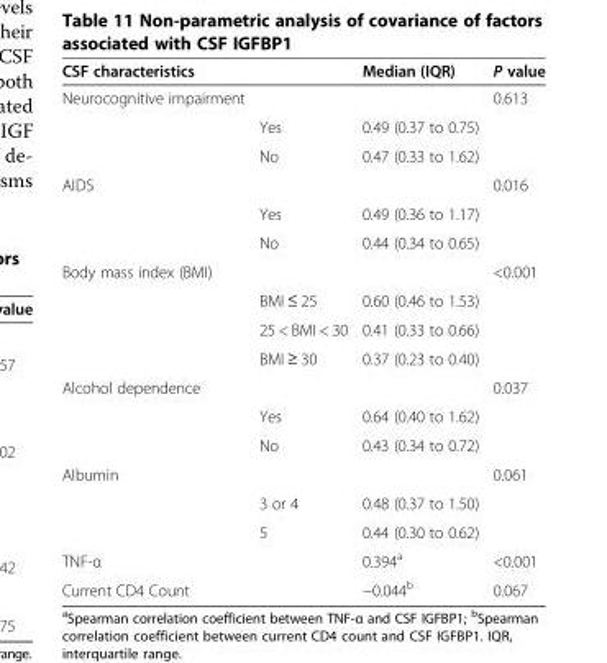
<table><thead><tr><td colspan="2">CSF characteristics</td><td rowspan="2">Median (IQR)</td><td rowspan="2">P value 0.613</td></tr><tr><td>Neurocognitive impairment</td><td></td></tr></thead><tbody><tr><td></td><td>Yes</td><td>0.49 (0.37 to 0.75)</td><td></td></tr><tr><td></td><td>No</td><td>0.47 (0.33 to 1.62)</td><td></td></tr><tr><td rowspan="3">AIDS</td><td></td><td></td><td>0.016</td></tr><tr><td>Yes</td><td>0.49 (0.36 to 1.17)</td><td></td></tr><tr><td>No</td><td>0.44 (0.34 to 0.65)</td><td></td></tr><tr><td rowspan="4">Body mass index (BMI)</td><td></td><td></td><td>&lt;0.001</td></tr><tr><td>BMI ≤ 25</td><td>0.60 (0.46 to 1.53)</td><td></td></tr><tr><td>25 &lt; BMI &lt; 30</td><td>0.41 (0.33 to 0.66)</td><td></td></tr><tr><td>BMI ≥ 30</td><td>0.37 (0.23 to 0.40)</td><td></td></tr><tr><td rowspan="3">Alcohol dependence</td><td></td><td></td><td>0.037</td></tr><tr><td>Yes</td><td>0.64 (0.40 to 1.62)</td><td></td></tr><tr><td>No</td><td>0.43 (0.34 to 0.72)</td><td></td></tr><tr><td rowspan="3">Albumin</td><td></td><td></td><td>0.061</td></tr><tr><td>3 or 4</td><td>0.48 (0.37 to 1.50)</td><td></td></tr><tr><td>5</td><td>0.44 (0.30 to 0.62)</td><td></td></tr><tr><td>TNF-α</td><td></td><td>0.394<sup>a</sup></td><td>&lt;0.001</td></tr><tr><td>Current CD4 Count</td><td></td><td>−0.044<sup>b</sup></td><td>0.067</td></tr></tbody></table>